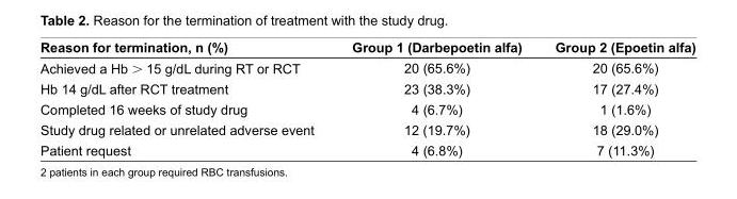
<table><thead><tr><td>Reason for termination, n (%)</td><td>Group 1 (Darbepoetin alfa)</td><td>Group 2 (Epoetin alfa)</td></tr></thead><tbody><tr><td>Achieved a Hb &gt; 15 g/dL during RT or RCT</td><td>20 (65.6%)</td><td>20 (65.6%)</td></tr><tr><td>Hb 14 g/dL after RCT treatment</td><td>23 (38.3%)</td><td>17 (27.4%)</td></tr><tr><td>Completed 16 weeks of study drug</td><td>4 (6.7%)</td><td>1 (1.6%)</td></tr><tr><td>Study drug related or unrelated adverse event</td><td>12 (19.7%)</td><td>18 (29.0%)</td></tr><tr><td>Patient request</td><td>4 (6.8%)</td><td>7 (11.3%)</td></tr></tbody></table>